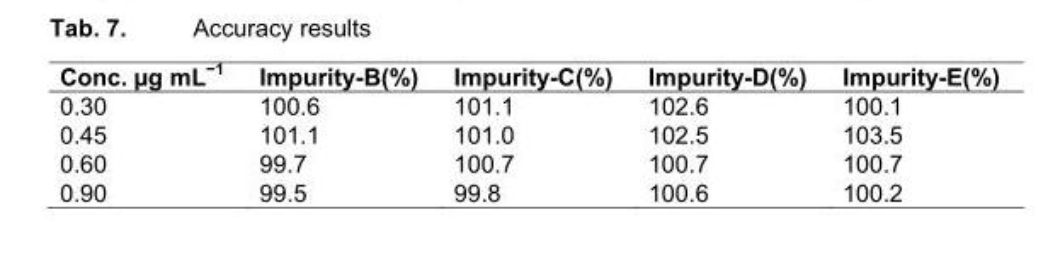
<table><thead><tr><td>Conc. µg mL<sup>−1</sup></td><td>Impurity-B(%)</td><td>Impurity-C(%)</td><td>Impurity-D(%)</td><td>Impurity-E(%)</td></tr></thead><tbody><tr><td>0.30</td><td>100.6</td><td>101.1</td><td>102.6</td><td>100.1</td></tr><tr><td>0.45</td><td>101.1</td><td>101.0</td><td>102.5</td><td>103.5</td></tr><tr><td>0.60</td><td>99.7</td><td>100.7</td><td>100.7</td><td>100.7</td></tr><tr><td>0.90</td><td>99.5</td><td>99.8</td><td>100.6</td><td>100.2</td></tr></tbody></table>